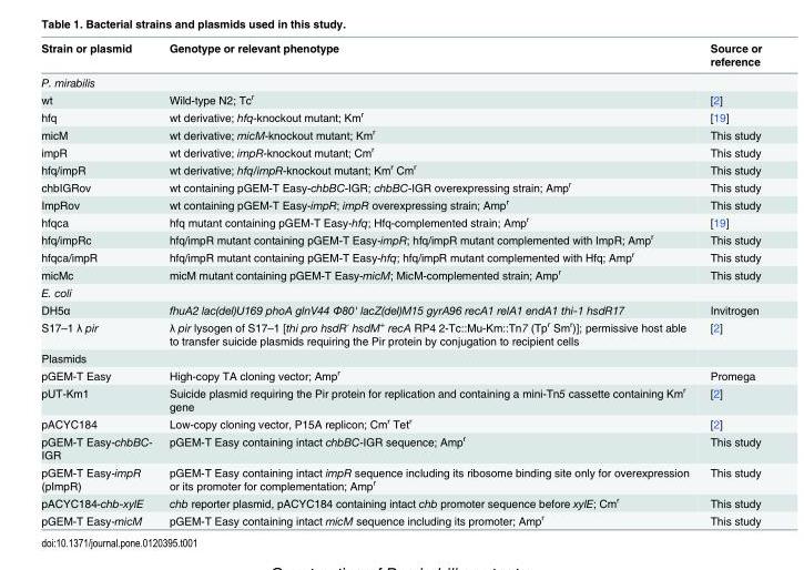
<table><thead><tr><td>Strain or plasmid</td><td>Genotype or relevant phenotype</td><td>Source or reference</td></tr></thead><tbody><tr><td colspan="3">P. mirabilis</td></tr><tr><td>wt</td><td>Wild-type N2; Tc<sup>r</sup></td><td>[2]</td></tr><tr><td>hfq</td><td>wt derivative; hfq-knockout mutant; Km<sup>r</sup></td><td>[19]</td></tr><tr><td>micM</td><td>wt derivative; micM-knockout mutant; Km<sup>r</sup></td><td>This study</td></tr><tr><td>impR</td><td>wt derivative; impR-knockout mutant; Cm<sup>r</sup></td><td>This study</td></tr><tr><td>hfq/impR</td><td>wt derivative; hfq/impR-knockout mutant; Km<sup>r</sup> Cm<sup>r</sup></td><td>This study</td></tr><tr><td>chbIGRov</td><td>wt containing pGEM-T Easy-chbBC-IGR; chbBC-IGR overexpressing strain; Amp<sup>r</sup></td><td>This study</td></tr><tr><td>ImpRov</td><td>wt containing pGEM-T Easy-impR; impR overexpressing strain; Amp<sup>r</sup></td><td>This study</td></tr><tr><td>hfqca</td><td>hfq mutant containing pGEM-T Easy-hfq; Hfq-complemented strain; Amp<sup>r</sup></td><td>[19]</td></tr><tr><td>hfq/impRc</td><td>hfq/impR mutant containing pGEM-T Easy-impR; hfq/impR mutant complemented with ImpR; Amp<sup>r</sup></td><td>This study</td></tr><tr><td>hfqca/impR</td><td>hfq/impR mutant containing pGEM-T Easy-hfq; hfq/impR mutant complemented with Hfq; Amp<sup>r</sup></td><td>This study</td></tr><tr><td>micMc</td><td>micM mutant containing pGEM-T Easy-micM; MicM-complemented strain; Amp<sup>r</sup></td><td>This study</td></tr><tr><td colspan="3">E. coli</td></tr><tr><td>DH5α</td><td>fhuA2 lac(del)U169 phoA glnV44 Φ80&#x27; lacZ(del)M15 gyrA96 recA1 relA1 endA1 thi-1 hsdR17</td><td>Invitrogen</td></tr><tr><td>S17–1 λ pir</td><td>λ pir lysogen of S17–1 [thi pro hsdR<sup>-</sup> hsdM<sup>+</sup> recA RP4 2-Tc::Mu-Km::Tn7 (Tp<sup>r</sup> Sm<sup>r</sup>)]; permissive host able to transfer suicide plasmids requiring the Pir protein by conjugation to recipient cells</td><td>[2]</td></tr><tr><td colspan="3">Plasmids</td></tr><tr><td>pGEM-T Easy</td><td>High-copy TA cloning vector; Amp<sup>r</sup></td><td>Promega</td></tr><tr><td>pUT-Km1</td><td>Suicide plasmid requiring the Pir protein for replication and containing a mini-Tn5 cassette containing Km<sup>r</sup> gene</td><td>[2]</td></tr><tr><td>pACYC184</td><td>Low-copy cloning vector, P15A replicon; Cm<sup>r</sup> Tet<sup>r</sup></td><td>[2]</td></tr><tr><td>pGEM-T Easy-chbBC- IGR</td><td>pGEM-T Easy containing intact chbBC-IGR sequence; Amp<sup>r</sup></td><td>This study</td></tr><tr><td>pGEM-T Easy-impR (pImpR)</td><td>pGEM-T Easy containing intact impR sequence including its ribosome binding site only for overexpression or its promoter for complementation; Amp<sup>r</sup></td><td>This study</td></tr><tr><td>pACYC184-chb-xylE</td><td>chb reporter plasmid, pACYC184 containing intact chb promoter sequence before xylE; Cm<sup>r</sup></td><td>This study</td></tr><tr><td>pGEM-T Easy-micM</td><td>pGEM-T Easy containing intact micM sequence including its promoter; Amp<sup>r</sup></td><td>This study</td></tr></tbody></table>